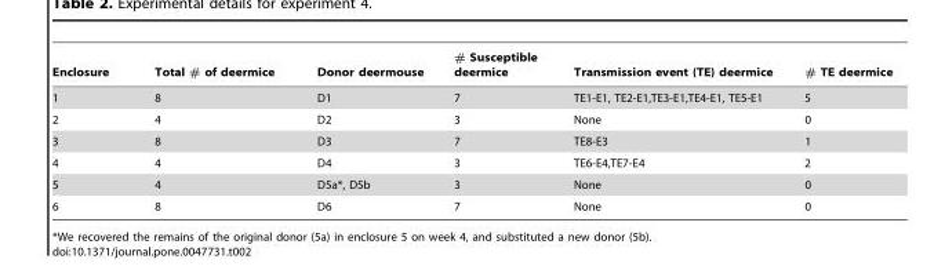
<table><thead><tr><td>Enclosure</td><td>Total # of deermice</td><td>Donor deermouse</td><td># Susceptible deermice</td><td>Transmission event (TE) deermice</td><td># TE deermice</td></tr></thead><tbody><tr><td>1</td><td>8</td><td>D1</td><td>7</td><td>TE1-E1, TE2-E1,TE3-E1,TE4-E1, TE5-E1</td><td>5</td></tr><tr><td>2</td><td>4</td><td>D2</td><td>3</td><td>None</td><td>0</td></tr><tr><td>3</td><td>8</td><td>D3</td><td>7</td><td>TE8-E3</td><td>1</td></tr><tr><td>4</td><td>4</td><td>D4</td><td>3</td><td>TE6-E4,TE7-E4</td><td>2</td></tr><tr><td>5</td><td>4</td><td>D5a*, D5b</td><td>3</td><td>None</td><td>0</td></tr><tr><td>6</td><td>8</td><td>D6</td><td>7</td><td>None</td><td>0</td></tr></tbody></table>